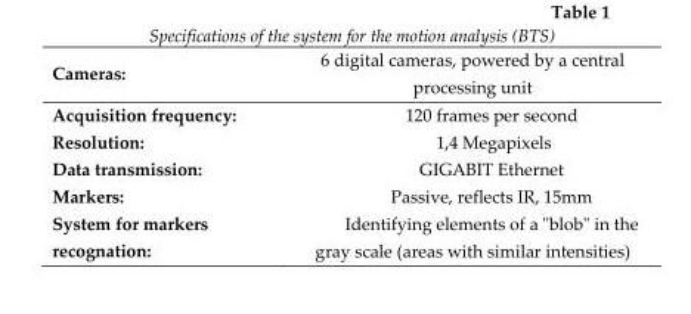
<table><thead><tr><td>Cameras:</td><td>6 digital cameras, powered by a central processing unit</td></tr></thead><tbody><tr><td>Acquisition frequency:</td><td>120 frames per second</td></tr><tr><td>Resolution:</td><td>1,4 Megapixels</td></tr><tr><td>Data transmission:</td><td>GIGABIT Ethernet</td></tr><tr><td>Markers:</td><td>Passive, reflects IR, 15mm</td></tr><tr><td>System for markers recognation:</td><td>Identifying elements of a &quot;blob&quot; in the gray scale (areas with similar intensities)</td></tr></tbody></table>